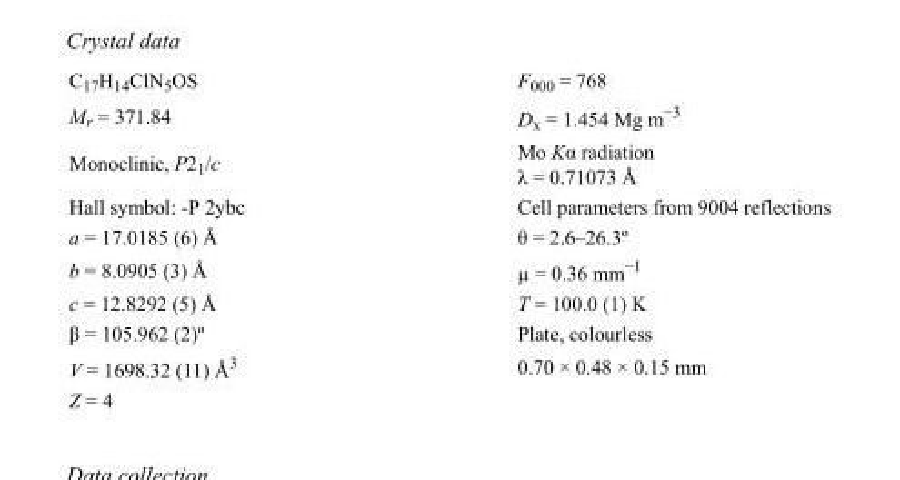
<table><tbody><tr><td>C<sub>17</sub>H<sub>14</sub>ClN<sub>5</sub>OS</td><td>F000 = 768</td></tr><tr><td>M<sub>r</sub> = 371.84</td><td>D<sub>x</sub> = 1.454 Mg m<sup>−3</sup></td></tr><tr><td>Monoclinic, P2<sub>1</sub>/c</td><td>Mo Kα radiation λ = 0.71073 Å</td></tr><tr><td>Hall symbol: -P 2ybc</td><td>Cell parameters from 9004 reflections</td></tr><tr><td>a = 17.0185 (6) Å</td><td>θ = 2.6–26.3º</td></tr><tr><td>b = 8.0905 (3) Å</td><td>µ = 0.36 mm<sup>−1</sup></td></tr><tr><td>c = 12.8292 (5) Å</td><td>T = 100.0 (1) K</td></tr><tr><td>β = 105.962 (2)º</td><td>Plate, colourless</td></tr><tr><td>V = 1698.32 (11) Å<sup>3</sup></td><td>0.70 × 0.48 × 0.15 mm</td></tr><tr><td>Z = 4</td><td></td></tr></tbody></table>